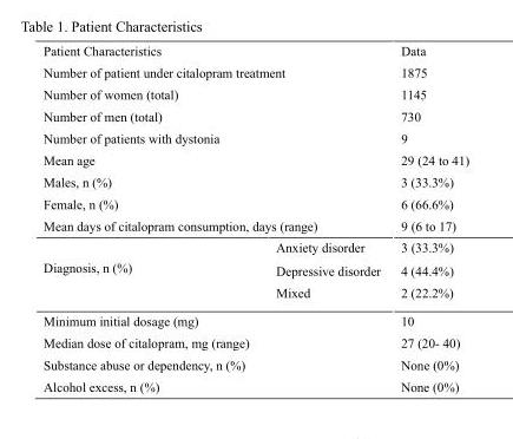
<table><thead><tr><td colspan="2">Patient Characteristics</td><td>Data</td></tr></thead><tbody><tr><td colspan="2">Number of patient under citalopram treatment</td><td>1875</td></tr><tr><td colspan="2">Number of women (total)</td><td>1145</td></tr><tr><td colspan="2">Number of men (total)</td><td>730</td></tr><tr><td colspan="2">Number of patients with dystonia</td><td>9</td></tr><tr><td colspan="2">Mean age</td><td>29 (24 to 41)</td></tr><tr><td colspan="2">Males, n (%)</td><td>3 (33.3%)</td></tr><tr><td colspan="2">Female, n (%)</td><td>6 (66.6%)</td></tr><tr><td colspan="2">Mean days of citalopram consumption, days (range)</td><td>9 (6 to 17)</td></tr><tr><td rowspan="3">Diagnosis, n (%)</td><td>Anxiety disorder</td><td>3 (33.3%)</td></tr><tr><td>Depressive disorder</td><td>4 (44.4%)</td></tr><tr><td>Mixed</td><td>2 (22.2%)</td></tr><tr><td colspan="2">Minimum initial dosage (mg)</td><td>10</td></tr><tr><td colspan="2">Median dose of citalopram, mg (range)</td><td>27 (20- 40)</td></tr><tr><td colspan="2">Substance abuse or dependency, n (%)</td><td>None (0%)</td></tr><tr><td colspan="2">Alcohol excess, n (%)</td><td>None (0%)</td></tr></tbody></table>